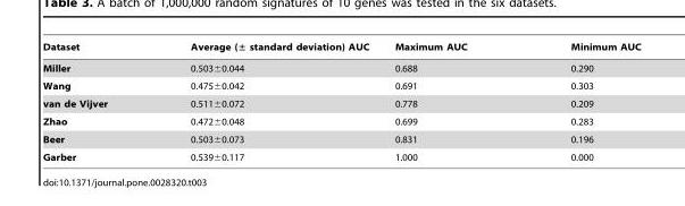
<table><thead><tr><td>Dataset</td><td>Average (± standard deviation) AUC</td><td>Maximum AUC</td><td>Minimum AUC</td></tr></thead><tbody><tr><td>Miller</td><td>0.503±0.044</td><td>0.688</td><td>0.290</td></tr><tr><td>Wang</td><td>0.475±0.042</td><td>0.691</td><td>0.303</td></tr><tr><td>van de Vijver</td><td>0.511±0.072</td><td>0.778</td><td>0.209</td></tr><tr><td>Zhao</td><td>0.472±0.048</td><td>0.699</td><td>0.283</td></tr><tr><td>Beer</td><td>0.503±0.073</td><td>0.831</td><td>0.196</td></tr><tr><td>Garber</td><td>0.539±0.117</td><td>1.000</td><td>0.000</td></tr></tbody></table>